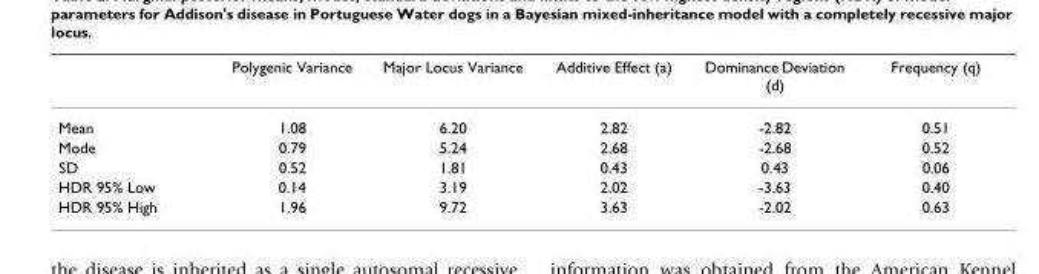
<table><thead><tr><td></td><td>Polygenic Variance</td><td>Major Locus Variance</td><td>Additive Effect (a)</td><td>Dominance Deviation (d)</td><td>Frequency (q)</td></tr></thead><tbody><tr><td>Mean</td><td>1.08</td><td>6.20</td><td>2.82</td><td>-2.82</td><td>0.51</td></tr><tr><td>Mode</td><td>0.79</td><td>5.24</td><td>2.68</td><td>-2.68</td><td>0.52</td></tr><tr><td>SD</td><td>0.52</td><td>1.81</td><td>0.43</td><td>0.43</td><td>0.06</td></tr><tr><td>HDR 95% Low</td><td>0.14</td><td>3.19</td><td>2.02</td><td>-3.63</td><td>0.40</td></tr><tr><td>HDR 95% High</td><td>1.96</td><td>9.72</td><td>3.63</td><td>-2.02</td><td>0.63</td></tr></tbody></table>